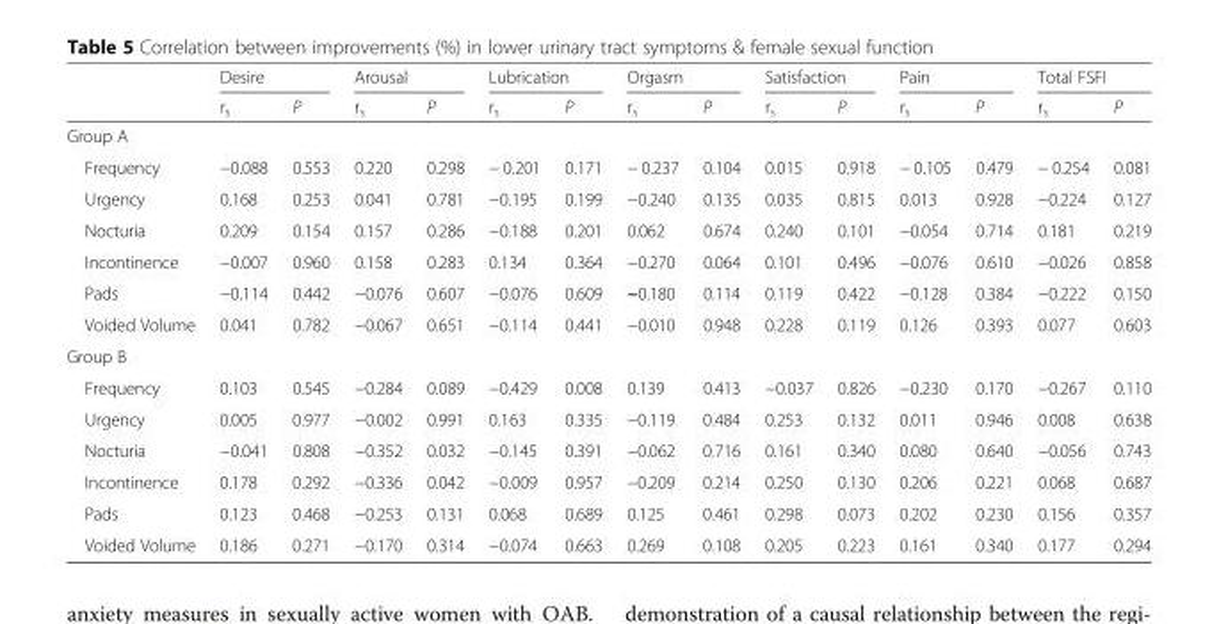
<table><thead><tr><td rowspan="2"></td><td colspan="2">Desire</td><td colspan="2">Arousal</td><td colspan="2">Lubrication</td><td colspan="2">Orgasm</td><td colspan="2">Satisfaction</td><td colspan="2">Pain</td><td colspan="2">Total FSFI</td></tr><tr><td>r<sub>s</sub></td><td>P</td><td>r<sub>s</sub></td><td>P</td><td>r<sub>s</sub></td><td>P</td><td>r<sub>s</sub></td><td>P</td><td>r<sub>s</sub></td><td>P</td><td>r<sub>s</sub></td><td>P</td><td>r<sub>s</sub></td><td>P</td></tr></thead><tbody><tr><td colspan="15">Group A</td></tr><tr><td>Frequency</td><td>−0.088</td><td>0.553</td><td>0.220</td><td>0.298</td><td>− 0.201</td><td>0.171</td><td>− 0.237</td><td>0.104</td><td>0.015</td><td>0.918</td><td>− 0.105</td><td>0.479</td><td>− 0.254</td><td>0.081</td></tr><tr><td>Urgency</td><td>0.168</td><td>0.253</td><td>0.041</td><td>0.781</td><td>−0.195</td><td>0.199</td><td>−0.240</td><td>0.135</td><td>0.035</td><td>0.815</td><td>0.013</td><td>0.928</td><td>−0.224</td><td>0.127</td></tr><tr><td>Nocturia</td><td>0.209</td><td>0.154</td><td>0.157</td><td>0.286</td><td>−0.188</td><td>0.201</td><td>0.062</td><td>0.674</td><td>0.240</td><td>0.101</td><td>−0.054</td><td>0.714</td><td>0.181</td><td>0.219</td></tr><tr><td>Incontinence</td><td>−0.007</td><td>0.960</td><td>0.158</td><td>0.283</td><td>0.134</td><td>0.364</td><td>−0.270</td><td>0.064</td><td>0.101</td><td>0.496</td><td>−0.076</td><td>0.610</td><td>−0.026</td><td>0.858</td></tr><tr><td>Pads</td><td>−0.114</td><td>0.442</td><td>−0.076</td><td>0.607</td><td>−0.076</td><td>0.609</td><td>−0.180</td><td>0.114</td><td>0.119</td><td>0.422</td><td>−0.128</td><td>0.384</td><td>−0.222</td><td>0.150</td></tr><tr><td>Voided Volume</td><td>0.041</td><td>0.782</td><td>−0.067</td><td>0.651</td><td>−0.114</td><td>0.441</td><td>−0.010</td><td>0.948</td><td>0.228</td><td>0.119</td><td>0.126</td><td>0.393</td><td>0.077</td><td>0.603</td></tr><tr><td colspan="15">Group B</td></tr><tr><td>Frequency</td><td>0.103</td><td>0.545</td><td>−0.284</td><td>0.089</td><td>−0.429</td><td>0.008</td><td>0.139</td><td>0.413</td><td>−0.037</td><td>0.826</td><td>−0.230</td><td>0.170</td><td>−0.267</td><td>0.110</td></tr><tr><td>Urgency</td><td>0.005</td><td>0.977</td><td>−0.002</td><td>0.991</td><td>0.163</td><td>0.335</td><td>−0.119</td><td>0.484</td><td>0.253</td><td>0.132</td><td>0.011</td><td>0.946</td><td>0.008</td><td>0.638</td></tr><tr><td>Nocturia</td><td>−0.041</td><td>0.808</td><td>−0.352</td><td>0.032</td><td>−0.145</td><td>0.391</td><td>−0.062</td><td>0.716</td><td>0.161</td><td>0.340</td><td>0.080</td><td>0.640</td><td>−0.056</td><td>0.743</td></tr><tr><td>Incontinence</td><td>0.178</td><td>0.292</td><td>−0.336</td><td>0.042</td><td>−0.009</td><td>0.957</td><td>−0.209</td><td>0.214</td><td>0.250</td><td>0.130</td><td>0.206</td><td>0.221</td><td>0.068</td><td>0.687</td></tr><tr><td>Pads</td><td>0.123</td><td>0.468</td><td>−0.253</td><td>0.131</td><td>0.068</td><td>0.689</td><td>0.125</td><td>0.461</td><td>0.298</td><td>0.073</td><td>0.202</td><td>0.230</td><td>0.156</td><td>0.357</td></tr><tr><td>Voided Volume</td><td>0.186</td><td>0.271</td><td>−0.170</td><td>0.314</td><td>−0.074</td><td>0.663</td><td>0.269</td><td>0.108</td><td>0.205</td><td>0.223</td><td>0.161</td><td>0.340</td><td>0.177</td><td>0.294</td></tr></tbody></table>